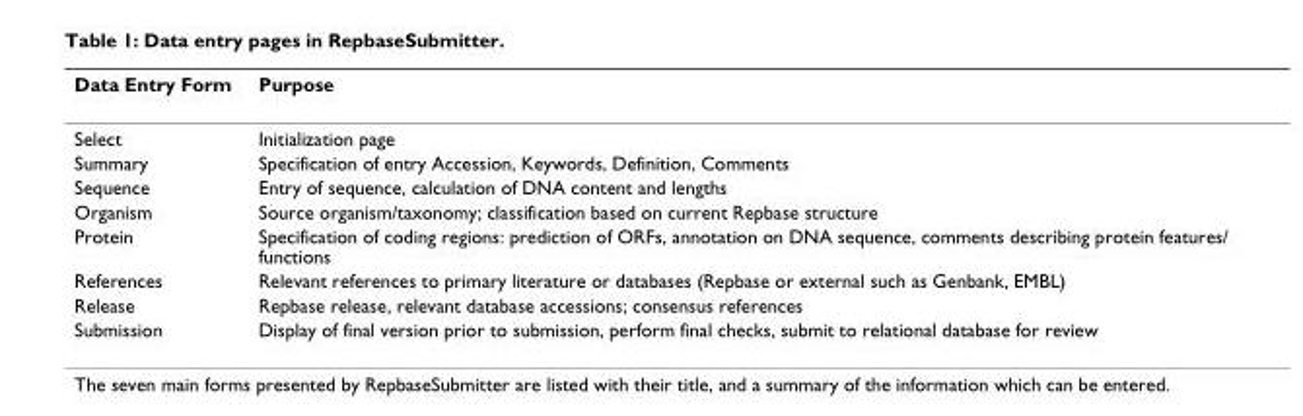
<table><thead><tr><td>Data Entry Form</td><td>Purpose</td></tr></thead><tbody><tr><td>Select</td><td>Initialization page</td></tr><tr><td>Summary</td><td>Specification of entry Accession, Keywords, Definition, Comments</td></tr><tr><td>Sequence</td><td>Entry of sequence, calculation of DNA content and lengths</td></tr><tr><td>Organism</td><td>Source organism/taxonomy; classification based on current Repbase structure</td></tr><tr><td>Protein</td><td>Specification of coding regions: prediction of ORFs, annotation on DNA sequence, comments describing protein features/ functions</td></tr><tr><td>References</td><td>Relevant references to primary literature or databases (Repbase or external such as Genbank, EMBL)</td></tr><tr><td>Release</td><td>Repbase release, relevant database accessions; consensus references</td></tr><tr><td>Submission</td><td>Display of final version prior to submission, perform final checks, submit to relational database for review</td></tr></tbody></table>